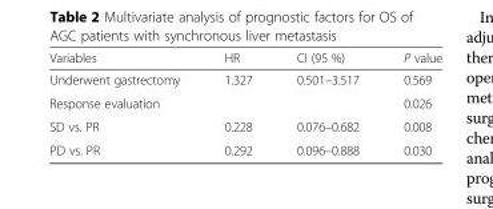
<table><thead><tr><td>Variables</td><td>HR</td><td>CI (95 %)</td><td>P value</td></tr></thead><tbody><tr><td>Underwent gastrectomy</td><td>1.327</td><td>0.501–3.517</td><td>0.569</td></tr><tr><td>Response evaluation</td><td></td><td></td><td>0.026</td></tr><tr><td>SD vs. PR</td><td>0.228</td><td>0.076–0.682</td><td>0.008</td></tr><tr><td>PD vs. PR</td><td>0.292</td><td>0.096–0.888</td><td>0.030</td></tr></tbody></table>